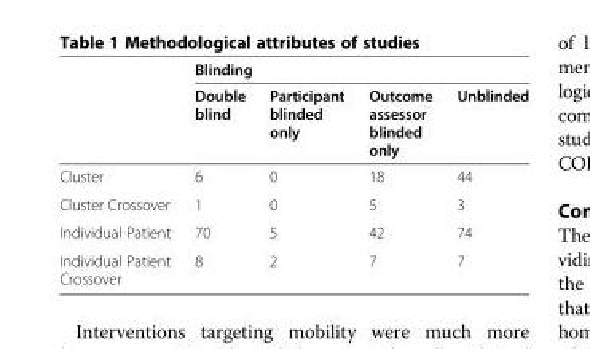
<table><thead><tr><td rowspan="2"></td><td colspan="4">Blinding</td></tr><tr><td>Double blind</td><td>Participant blinded only</td><td>Outcome assessor blinded only</td><td>Unblinded</td></tr></thead><tbody><tr><td>Cluster</td><td>6</td><td>0</td><td>18</td><td>44</td></tr><tr><td>Cluster Crossover</td><td>1</td><td>0</td><td>5</td><td>3</td></tr><tr><td>Individual Patient</td><td>70</td><td>5</td><td>42</td><td>74</td></tr><tr><td>Individual Patient Crossover</td><td>8</td><td>2</td><td>7</td><td>7</td></tr></tbody></table>